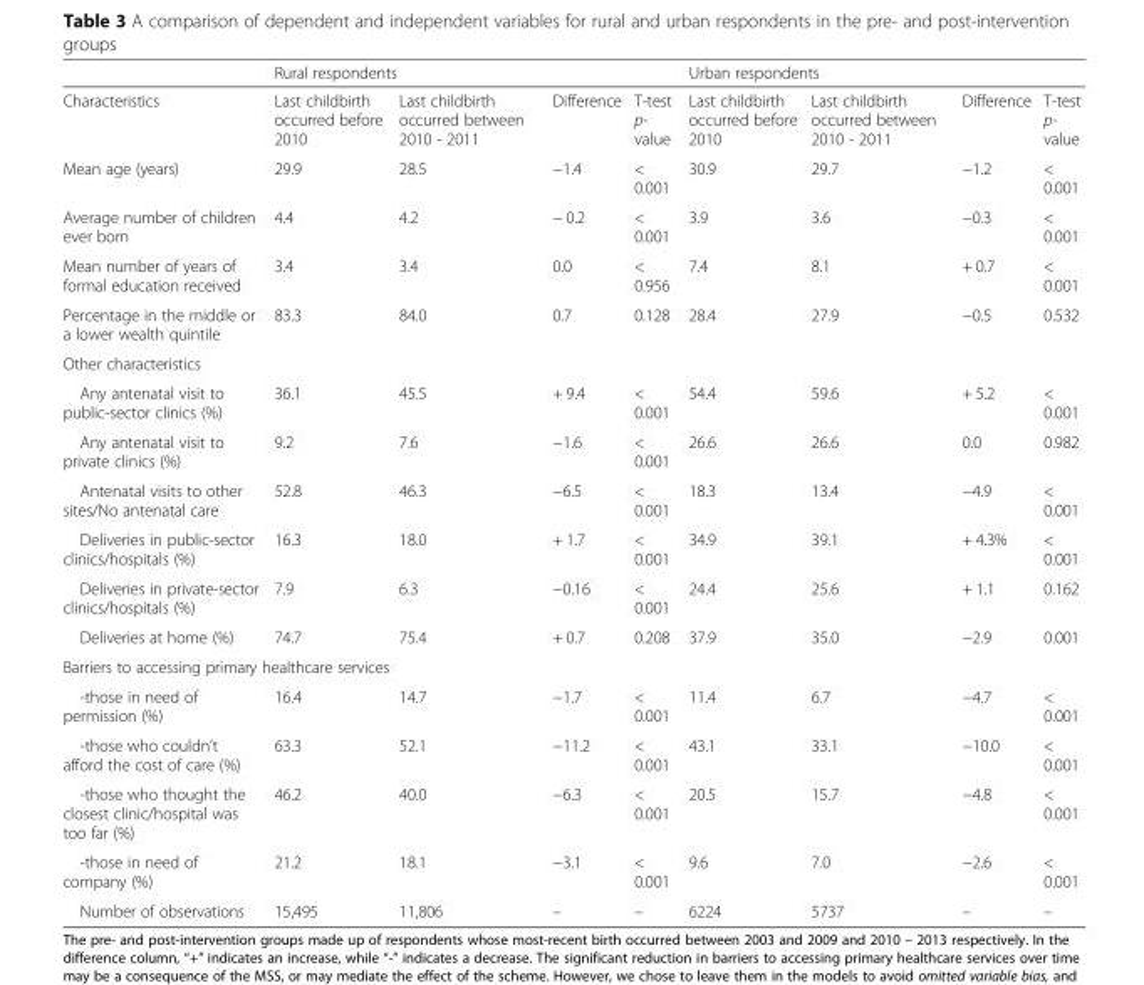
<table><thead><tr><td rowspan="2">Characteristics</td><td colspan="4">Rural respondents</td><td colspan="4">Urban respondents</td></tr><tr><td>Last childbirth occurred before 2010</td><td>Last childbirth occurred between 2010 - 2011</td><td>Difference</td><td>T-test p- value</td><td>Last childbirth occurred before 2010</td><td>Last childbirth occurred between 2010 - 2011</td><td>Difference</td><td>T-test p- value</td></tr></thead><tbody><tr><td>Mean age (years)</td><td>29.9</td><td>28.5</td><td>−1.4</td><td>&lt; 0.001</td><td>30.9</td><td>29.7</td><td>−1.2</td><td>&lt; 0.001</td></tr><tr><td>Average number of children ever born</td><td>4.4</td><td>4.2</td><td>− 0.2</td><td>&lt; 0.001</td><td>3.9</td><td>3.6</td><td>−0.3</td><td>&lt; 0.001</td></tr><tr><td>Mean number of years of formal education received</td><td>3.4</td><td>3.4</td><td>0.0</td><td>&lt; 0.956</td><td>7.4</td><td>8.1</td><td>+ 0.7</td><td>&lt; 0.001</td></tr><tr><td>Percentage in the middle or a lower wealth quintile</td><td>83.3</td><td>84.0</td><td>0.7</td><td>0.128</td><td>28.4</td><td>27.9</td><td>−0.5</td><td>0.532</td></tr><tr><td colspan="9">Other characteristics</td></tr><tr><td>Any antenatal visit to public-sector clinics (%)</td><td>36.1</td><td>45.5</td><td>+ 9.4</td><td>&lt; 0.001</td><td>54.4</td><td>59.6</td><td>+ 5.2</td><td>&lt; 0.001</td></tr><tr><td>Any antenatal visit to private clinics (%)</td><td>9.2</td><td>7.6</td><td>−1.6</td><td>&lt; 0.001</td><td>26.6</td><td>26.6</td><td>0.0</td><td>0.982</td></tr><tr><td>Antenatal visits to other sites/No antenatal care</td><td>52.8</td><td>46.3</td><td>−6.5</td><td>&lt; 0.001</td><td>18.3</td><td>13.4</td><td>−4.9</td><td>&lt; 0.001</td></tr><tr><td>Deliveries in public-sector clinics/hospitals (%)</td><td>16.3</td><td>18.0</td><td>+ 1.7</td><td>&lt; 0.001</td><td>34.9</td><td>39.1</td><td>+ 4.3%</td><td>&lt; 0.001</td></tr><tr><td>Deliveries in private-sector clinics/hospitals (%)</td><td>7.9</td><td>6.3</td><td>−0.16</td><td>&lt; 0.001</td><td>24.4</td><td>25.6</td><td>+ 1.1</td><td>0.162</td></tr><tr><td>Deliveries at home (%)</td><td>74.7</td><td>75.4</td><td>+ 0.7</td><td>0.208</td><td>37.9</td><td>35.0</td><td>−2.9</td><td>0.001</td></tr><tr><td colspan="9">Barriers to accessing primary healthcare services</td></tr><tr><td>-those in need of permission (%)</td><td>16.4</td><td>14.7</td><td>−1.7</td><td>&lt; 0.001</td><td>11.4</td><td>6.7</td><td>−4.7</td><td>&lt; 0.001</td></tr><tr><td>-those who couldn’t afford the cost of care (%)</td><td>63.3</td><td>52.1</td><td>−11.2</td><td>&lt; 0.001</td><td>43.1</td><td>33.1</td><td>−10.0</td><td>&lt; 0.001</td></tr><tr><td>-those who thought the closest clinic/hospital was too far (%)</td><td>46.2</td><td>40.0</td><td>−6.3</td><td>&lt; 0.001</td><td>20.5</td><td>15.7</td><td>−4.8</td><td>&lt; 0.001</td></tr><tr><td>-those in need of company (%)</td><td>21.2</td><td>18.1</td><td>−3.1</td><td>&lt; 0.001</td><td>9.6</td><td>7.0</td><td>−2.6</td><td>&lt; 0.001</td></tr><tr><td>Number of observations</td><td>15,495</td><td>11,806</td><td>–</td><td>–</td><td>6224</td><td>5737</td><td>–</td><td>–</td></tr></tbody></table>